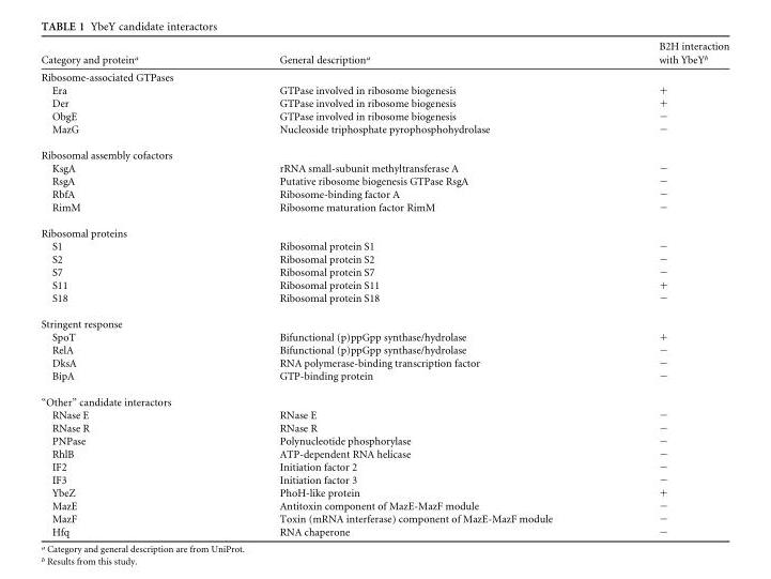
<table><thead><tr><td>Category and protein<sup>a</sup></td><td>General description<sup>a</sup></td><td>B2H interaction with YbeY<sup>b</sup></td></tr></thead><tbody><tr><td colspan="3">Ribosome-associated GTPases</td></tr><tr><td>Era</td><td>GTPase involved in ribosome biogenesis</td><td>+</td></tr><tr><td>Der</td><td>GTPase involved in ribosome biogenesis</td><td>+</td></tr><tr><td>ObgE</td><td>GTPase involved in ribosome biogenesis</td><td>−</td></tr><tr><td>MazG</td><td>Nucleoside triphosphate pyrophosphohydrolase</td><td>−</td></tr><tr><td colspan="3">Ribosomal assembly cofactors</td></tr><tr><td>KsgA</td><td>rRNA small-subunit methyltransferase A</td><td>−</td></tr><tr><td>RsgA</td><td>Putative ribosome biogenesis GTPase RsgA</td><td>−</td></tr><tr><td>RbfA</td><td>Ribosome-binding factor A</td><td>−</td></tr><tr><td>RimM</td><td>Ribosome maturation factor RimM</td><td>−</td></tr><tr><td colspan="3">Ribosomal proteins</td></tr><tr><td>S1</td><td>Ribosomal protein S1</td><td>−</td></tr><tr><td>S2</td><td>Ribosomal protein S2</td><td>−</td></tr><tr><td>S7</td><td>Ribosomal protein S7</td><td>−</td></tr><tr><td>S11</td><td>Ribosomal protein S11</td><td>+</td></tr><tr><td>S18</td><td>Ribosomal protein S18</td><td>−</td></tr><tr><td colspan="3">Stringent response</td></tr><tr><td>SpoT</td><td>Bifunctional (p)ppGpp synthase/hydrolase</td><td>+</td></tr><tr><td>RelA</td><td>Bifunctional (p)ppGpp synthase/hydrolase</td><td>−</td></tr><tr><td>DksA</td><td>RNA polymerase-binding transcription factor</td><td>−</td></tr><tr><td>BipA</td><td>GTP-binding protein</td><td>−</td></tr><tr><td colspan="3">“Other” candidate interactors</td></tr><tr><td>RNase E</td><td>RNase E</td><td>−</td></tr><tr><td>RNase R</td><td>RNase R</td><td>−</td></tr><tr><td>PNPase</td><td>Polynucleotide phosphorylase</td><td>−</td></tr><tr><td>RhlB</td><td>ATP-dependent RNA helicase</td><td>−</td></tr><tr><td>IF2</td><td>Initiation factor 2</td><td>−</td></tr><tr><td>IF3</td><td>Initiation factor 3</td><td>−</td></tr><tr><td>YbeZ</td><td>PhoH-like protein</td><td>+</td></tr><tr><td>MazE</td><td>Antitoxin component of MazE-MazF module</td><td>−</td></tr><tr><td>MazF</td><td>Toxin (mRNA interferase) component of MazE-MazF module</td><td>−</td></tr><tr><td>Hfq</td><td>RNA chaperone</td><td>−</td></tr></tbody></table>